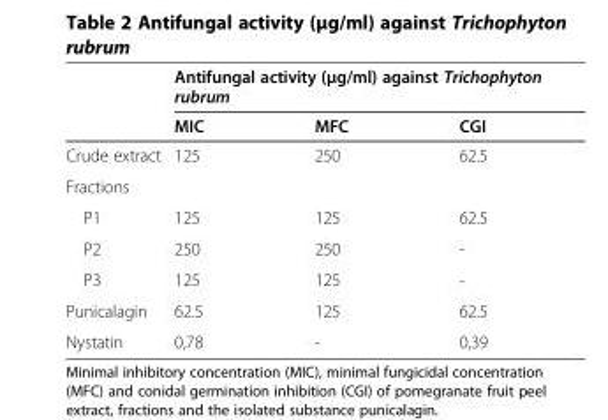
<table><thead><tr><td rowspan="2"></td><td colspan="3">Antifungal activity (μg/ml) against Trichophyton rubrum</td></tr><tr><td>MIC</td><td>MFC</td><td>CGI</td></tr></thead><tbody><tr><td>Crude extract</td><td>125</td><td>250</td><td>62.5</td></tr><tr><td colspan="4">Fractions</td></tr><tr><td>P1</td><td>125</td><td>125</td><td>62.5</td></tr><tr><td>P2</td><td>250</td><td>250</td><td>-</td></tr><tr><td>P3</td><td>125</td><td>125</td><td>-</td></tr><tr><td>Punicalagin</td><td>62.5</td><td>125</td><td>62.5</td></tr><tr><td>Nystatin</td><td>0,78</td><td>-</td><td>0,39</td></tr></tbody></table>